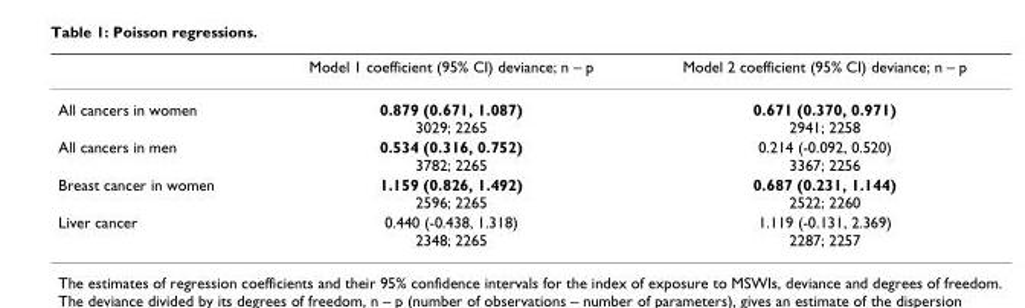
<table><thead><tr><td></td><td>Model 1 coefficient (95% CI) deviance; n – p</td><td>Model 2 coefficient (95% CI) deviance; n – p</td></tr></thead><tbody><tr><td>All cancers in women</td><td>0.879 (0.671, 1.087) 3029; 2265</td><td>0.671 (0.370, 0.971) 2941; 2258</td></tr><tr><td>All cancers in men</td><td>0.534 (0.316, 0.752) 3782; 2265</td><td>0.214 (-0.092, 0.520) 3367; 2256</td></tr><tr><td>Breast cancer in women</td><td>1.159 (0.826, 1.492) 2596; 2265</td><td>0.687 (0.231, 1.144) 2522; 2260</td></tr><tr><td>Liver cancer</td><td>0.440 (-0.438, 1.318) 2348; 2265</td><td>1.119 (-0.131, 2.369) 2287; 2257</td></tr></tbody></table>